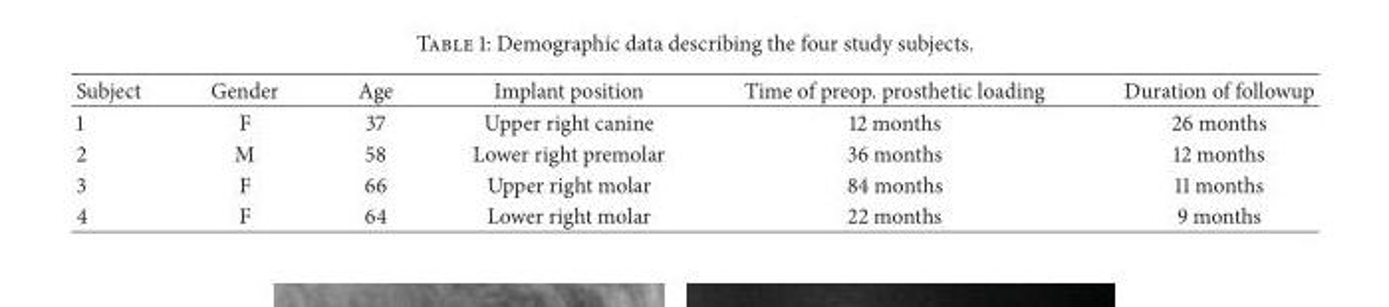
<table><thead><tr><td>Subject</td><td>Gender</td><td>Age</td><td>Implant position</td><td>Time of preop. prosthetic loading</td><td>Duration of followup</td></tr></thead><tbody><tr><td>1</td><td>F</td><td>37</td><td>Upper right canine</td><td>12 months</td><td>26 months</td></tr><tr><td>2</td><td>M</td><td>58</td><td>Lower right premolar</td><td>36 months</td><td>12 months</td></tr><tr><td>3</td><td>F</td><td>66</td><td>Upper right molar</td><td>84 months</td><td>11 months</td></tr><tr><td>4</td><td>F</td><td>64</td><td>Lower right molar</td><td>22 months</td><td>9 months</td></tr></tbody></table>